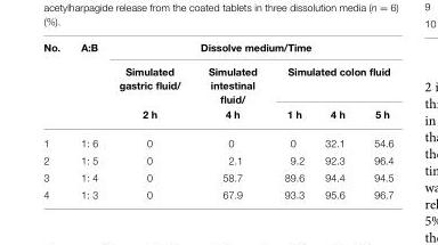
<table><thead><tr><td rowspan="3">No.</td><td rowspan="3">A:B</td><td colspan="5">Dissolve medium/Time</td></tr><tr><td rowspan="2">Simulated gastric fluid/ 2 h</td><td rowspan="2">Simulated intestinal fluid/ 4 h</td><td colspan="3">Simulated colon fluid</td></tr><tr><td>1 h</td><td>4 h</td><td>5 h</td></tr></thead><tbody><tr><td>1</td><td>1: 6</td><td>0</td><td>0</td><td>0</td><td>32.1</td><td>54.6</td></tr><tr><td>2</td><td>1: 5</td><td>0</td><td>2.1</td><td>9.2</td><td>92.3</td><td>96.4</td></tr><tr><td>3</td><td>1: 4</td><td>0</td><td>58.7</td><td>89.6</td><td>94.4</td><td>94.5</td></tr><tr><td>4</td><td>1: 3</td><td>0</td><td>67.9</td><td>93.3</td><td>95.6</td><td>96.7</td></tr></tbody></table>